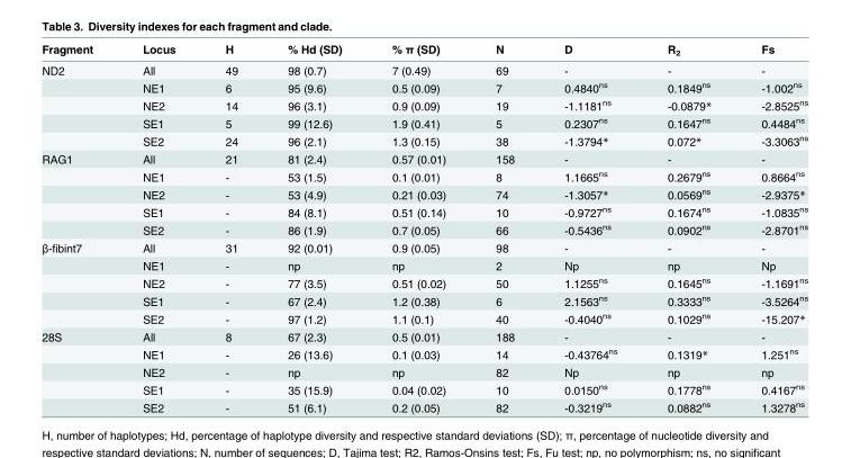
<table><thead><tr><td>Fragment</td><td>Locus</td><td>H</td><td>% Hd (SD)</td><td>% π (SD)</td><td>N</td><td>D</td><td>R<sub>2</sub></td><td>Fs</td></tr></thead><tbody><tr><td rowspan="5">ND2</td><td>All</td><td>49</td><td>98 (0.7)</td><td>7 (0.49)</td><td>69</td><td>-</td><td>-</td><td>-</td></tr><tr><td>NE1</td><td>6</td><td>95 (9.6)</td><td>0.5 (0.09)</td><td>7</td><td>0.4840<sup>ns</sup></td><td>0.1849<sup>ns</sup></td><td>-1.002<sup>ns</sup></td></tr><tr><td>NE2</td><td>14</td><td>96 (3.1)</td><td>0.9 (0.09)</td><td>19</td><td>-1.1181<sup>ns</sup></td><td>-0.0879*</td><td>-2.8525<sup>ns</sup></td></tr><tr><td>SE1</td><td>5</td><td>99 (12.6)</td><td>1.9 (0.41)</td><td>5</td><td>0.2307<sup>ns</sup></td><td>0.1647<sup>ns</sup></td><td>0.4484<sup>ns</sup></td></tr><tr><td>SE2</td><td>24</td><td>96 (2.1)</td><td>1.3 (0.15)</td><td>38</td><td>-1.3794*</td><td>0.072*</td><td>-3.3063<sup>ns</sup></td></tr><tr><td rowspan="5">RAG1</td><td>All</td><td>21</td><td>81 (2.4)</td><td>0.57 (0.01)</td><td>158</td><td>-</td><td>-</td><td>-</td></tr><tr><td>NE1</td><td>-</td><td>53 (1.5)</td><td>0.1 (0.01)</td><td>8</td><td>1.1665<sup>ns</sup></td><td>0.2679<sup>ns</sup></td><td>0.8664<sup>ns</sup></td></tr><tr><td>NE2</td><td>-</td><td>53 (4.9)</td><td>0.21 (0.03)</td><td>74</td><td>-1.3057*</td><td>0.0569<sup>ns</sup></td><td>-2.9375*</td></tr><tr><td>SE1</td><td>-</td><td>84 (8.1)</td><td>0.51 (0.14)</td><td>10</td><td>-0.9727<sup>ns</sup></td><td>0.1674<sup>ns</sup></td><td>-1.0835<sup>ns</sup></td></tr><tr><td>SE2</td><td>-</td><td>86 (1.9)</td><td>0.7 (0.05)</td><td>66</td><td>-0.5436<sup>ns</sup></td><td>0.0902<sup>ns</sup></td><td>-2.8701<sup>ns</sup></td></tr><tr><td rowspan="5">β-fibint7</td><td>All</td><td>31</td><td>92 (0.01)</td><td>0.9 (0.05)</td><td>98</td><td>-</td><td>-</td><td>-</td></tr><tr><td>NE1</td><td>-</td><td>np</td><td>np</td><td>2</td><td>Np</td><td>np</td><td>Np</td></tr><tr><td>NE2</td><td>-</td><td>77 (3.5)</td><td>0.51 (0.02)</td><td>50</td><td>1.1255<sup>ns</sup></td><td>0.1645<sup>ns</sup></td><td>-1.1691<sup>ns</sup></td></tr><tr><td>SE1</td><td>-</td><td>67 (2.4)</td><td>1.2 (0.38)</td><td>6</td><td>2.1563<sup>ns</sup></td><td>0.3333<sup>ns</sup></td><td>-3.5264<sup>ns</sup></td></tr><tr><td>SE2</td><td>-</td><td>97 (1.2)</td><td>1.1 (0.1)</td><td>40</td><td>-0.4040<sup>ns</sup></td><td>0.1029<sup>ns</sup></td><td>-15.207*</td></tr><tr><td rowspan="5">28S</td><td>All</td><td>8</td><td>67 (2.3)</td><td>0.5 (0.01)</td><td>188</td><td>-</td><td>-</td><td>-</td></tr><tr><td>NE1</td><td>-</td><td>26 (13.6)</td><td>0.1 (0.03)</td><td>14</td><td>-0.43764<sup>ns</sup></td><td>0.1319*</td><td>1.251<sup>ns</sup></td></tr><tr><td>NE2</td><td>-</td><td>np</td><td>np</td><td>82</td><td>Np</td><td>np</td><td>np</td></tr><tr><td>SE1</td><td>-</td><td>35 (15.9)</td><td>0.04 (0.02)</td><td>10</td><td>0.0150<sup>ns</sup></td><td>0.1778<sup>ns</sup></td><td>0.4167<sup>ns</sup></td></tr><tr><td>SE2</td><td>-</td><td>51 (6.1)</td><td>0.2 (0.05)</td><td>82</td><td>-0.3219<sup>ns</sup></td><td>0.0882<sup>ns</sup></td><td>1.3278<sup>ns</sup></td></tr></tbody></table>